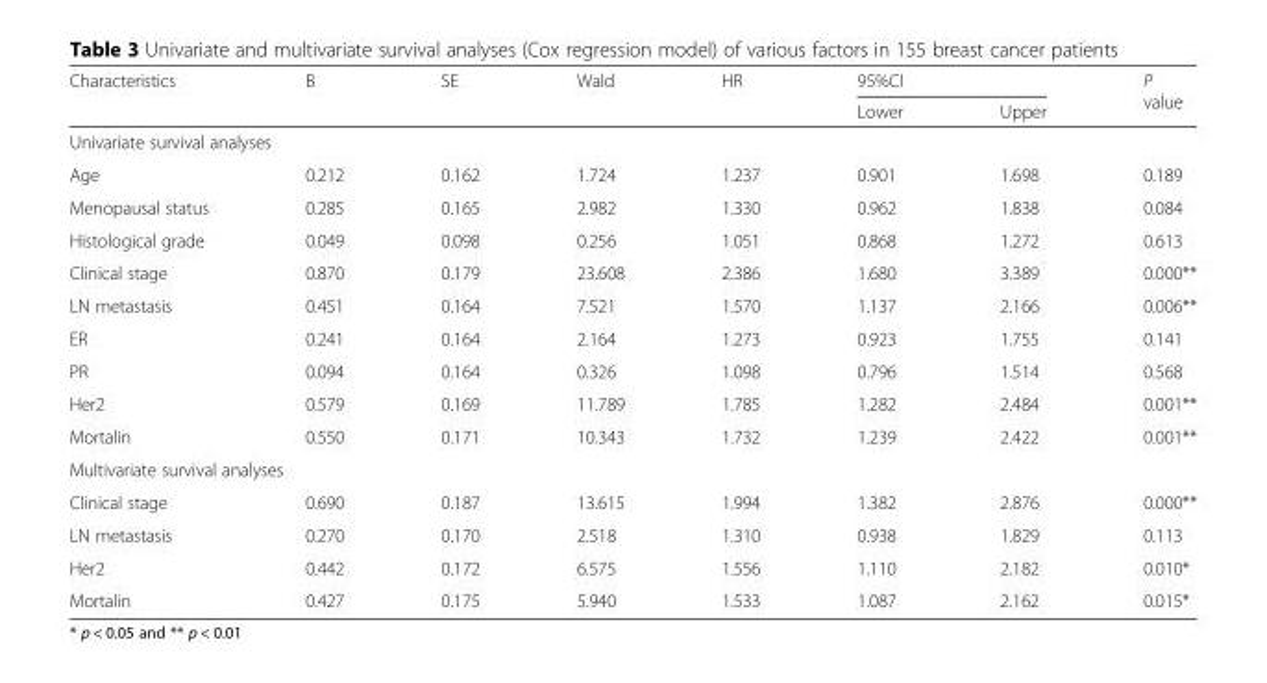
<table><thead><tr><td rowspan="2">Characteristics</td><td rowspan="2">B</td><td rowspan="2">SE</td><td rowspan="2">Wald</td><td rowspan="2">HR</td><td colspan="2">95%CI</td><td rowspan="2">P value</td></tr><tr><td>Lower</td><td>Upper</td></tr></thead><tbody><tr><td colspan="8">Univariate survival analyses</td></tr><tr><td>Age</td><td>0.212</td><td>0.162</td><td>1.724</td><td>1.237</td><td>0.901</td><td>1.698</td><td>0.189</td></tr><tr><td>Menopausal status</td><td>0.285</td><td>0.165</td><td>2.982</td><td>1.330</td><td>0.962</td><td>1.838</td><td>0.084</td></tr><tr><td>Histological grade</td><td>0.049</td><td>0.098</td><td>0.256</td><td>1.051</td><td>0.868</td><td>1.272</td><td>0.613</td></tr><tr><td>Clinical stage</td><td>0.870</td><td>0.179</td><td>23.608</td><td>2.386</td><td>1.680</td><td>3.389</td><td>0.000**</td></tr><tr><td>LN metastasis</td><td>0.451</td><td>0.164</td><td>7.521</td><td>1.570</td><td>1.137</td><td>2.166</td><td>0.006**</td></tr><tr><td>ER</td><td>0.241</td><td>0.164</td><td>2.164</td><td>1.273</td><td>0.923</td><td>1.755</td><td>0.141</td></tr><tr><td>PR</td><td>0.094</td><td>0.164</td><td>0.326</td><td>1.098</td><td>0.796</td><td>1.514</td><td>0.568</td></tr><tr><td>Her2</td><td>0.579</td><td>0.169</td><td>11.789</td><td>1.785</td><td>1.282</td><td>2.484</td><td>0.001**</td></tr><tr><td>Mortalin</td><td>0.550</td><td>0.171</td><td>10.343</td><td>1.732</td><td>1.239</td><td>2.422</td><td>0.001**</td></tr><tr><td colspan="8">Multivariate survival analyses</td></tr><tr><td>Clinical stage</td><td>0.690</td><td>0.187</td><td>13.615</td><td>1.994</td><td>1.382</td><td>2.876</td><td>0.000**</td></tr><tr><td>LN metastasis</td><td>0.270</td><td>0.170</td><td>2.518</td><td>1.310</td><td>0.938</td><td>1.829</td><td>0.113</td></tr><tr><td>Her2</td><td>0.442</td><td>0.172</td><td>6.575</td><td>1.556</td><td>1.110</td><td>2.182</td><td>0.010*</td></tr><tr><td>Mortalin</td><td>0.427</td><td>0.175</td><td>5.940</td><td>1.533</td><td>1.087</td><td>2.162</td><td>0.015*</td></tr></tbody></table>